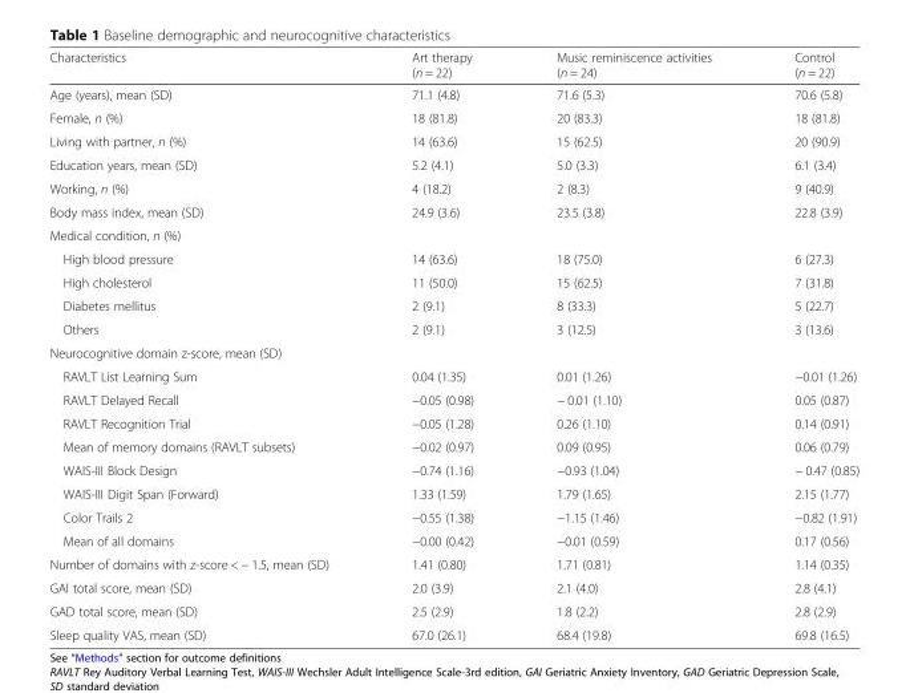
<table><thead><tr><td>Characteristics</td><td>Art therapy (n = 22)</td><td>Music reminiscence activities (n = 24)</td><td>Control (n = 22)</td></tr></thead><tbody><tr><td>Age (years), mean (SD)</td><td>71.1 (4.8)</td><td>71.6 (5.3)</td><td>70.6 (5.8)</td></tr><tr><td>Female, n (%)</td><td>18 (81.8)</td><td>20 (83.3)</td><td>18 (81.8)</td></tr><tr><td>Living with partner, n (%)</td><td>14 (63.6)</td><td>15 (62.5)</td><td>20 (90.9)</td></tr><tr><td>Education years, mean (SD)</td><td>5.2 (4.1)</td><td>5.0 (3.3)</td><td>6.1 (3.4)</td></tr><tr><td>Working, n (%)</td><td>4 (18.2)</td><td>2 (8.3)</td><td>9 (40.9)</td></tr><tr><td>Body mass index, mean (SD)</td><td>24.9 (3.6)</td><td>23.5 (3.8)</td><td>22.8 (3.9)</td></tr><tr><td colspan="4">Medical condition, n (%)</td></tr><tr><td>High blood pressure</td><td>14 (63.6)</td><td>18 (75.0)</td><td>6 (27.3)</td></tr><tr><td>High cholesterol</td><td>11 (50.0)</td><td>15 (62.5)</td><td>7 (31.8)</td></tr><tr><td>Diabetes mellitus</td><td>2 (9.1)</td><td>8 (33.3)</td><td>5 (22.7)</td></tr><tr><td>Others</td><td>2 (9.1)</td><td>3 (12.5)</td><td>3 (13.6)</td></tr><tr><td colspan="4">Neurocognitive domain z-score, mean (SD)</td></tr><tr><td>RAVLT List Learning Sum</td><td>0.04 (1.35)</td><td>0.01 (1.26)</td><td>−0.01 (1.26)</td></tr><tr><td>RAVLT Delayed Recall</td><td>−0.05 (0.98)</td><td>− 0.01 (1.10)</td><td>0.05 (0.87)</td></tr><tr><td>RAVLT Recognition Trial</td><td>−0.05 (1.28)</td><td>0.26 (1.10)</td><td>0.14 (0.91)</td></tr><tr><td>Mean of memory domains (RAVLT subsets)</td><td>−0.02 (0.97)</td><td>0.09 (0.95)</td><td>0.06 (0.79)</td></tr><tr><td>WAIS-III Block Design</td><td>−0.74 (1.16)</td><td>−0.93 (1.04)</td><td>− 0.47 (0.85)</td></tr><tr><td>WAIS-III Digit Span (Forward)</td><td>1.33 (1.59)</td><td>1.79 (1.65)</td><td>2.15 (1.77)</td></tr><tr><td>Color Trails 2</td><td>−0.55 (1.38)</td><td>−1.15 (1.46)</td><td>−0.82 (1.91)</td></tr><tr><td>Mean of all domains</td><td>−0.00 (0.42)</td><td>−0.01 (0.59)</td><td>0.17 (0.56)</td></tr><tr><td>Number of domains with z-score &lt; − 1.5, mean (SD)</td><td>1.41 (0.80)</td><td>1.71 (0.81)</td><td>1.14 (0.35)</td></tr><tr><td>GAI total score, mean (SD)</td><td>2.0 (3.9)</td><td>2.1 (4.0)</td><td>2.8 (4.1)</td></tr><tr><td>GAD total score, mean (SD)</td><td>2.5 (2.9)</td><td>1.8 (2.2)</td><td>2.8 (2.9)</td></tr><tr><td>Sleep quality VAS, mean (SD)</td><td>67.0 (26.1)</td><td>68.4 (19.8)</td><td>69.8 (16.5)</td></tr></tbody></table>